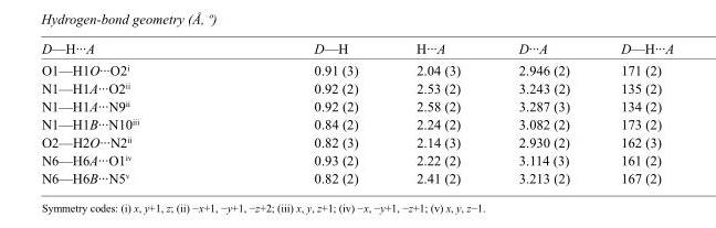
<table><tbody><tr><td>D—H···A</td><td>D—H</td><td>H···A</td><td>D···A</td><td>D—H···A</td></tr><tr><td>O1—H1O···O2<sup>i</sup></td><td>0.91 (3)</td><td>2.04 (3)</td><td>2.946 (2)</td><td>171 (2)</td></tr><tr><td>N1—H1A···O2<sup>ii</sup></td><td>0.92 (2)</td><td>2.53 (2)</td><td>3.243 (2)</td><td>135 (2)</td></tr><tr><td>N1—H1A···N9<sup>ii</sup></td><td>0.92 (2)</td><td>2.58 (2)</td><td>3.287 (3)</td><td>134 (2)</td></tr><tr><td>N1—H1B···N10<sup>iii</sup></td><td>0.84 (2)</td><td>2.24 (2)</td><td>3.082 (2)</td><td>173 (2)</td></tr><tr><td>O2—H2O···N2<sup>ii</sup></td><td>0.82 (3)</td><td>2.14 (3)</td><td>2.930 (2)</td><td>162 (3)</td></tr><tr><td>N6—H6A···O1<sup>iv</sup></td><td>0.93 (2)</td><td>2.22 (2)</td><td>3.114 (3)</td><td>161 (2)</td></tr><tr><td>N6—H6B···N5<sup>v</sup></td><td>0.82 (2)</td><td>2.41 (2)</td><td>3.213 (2)</td><td>167 (2)</td></tr></tbody></table>